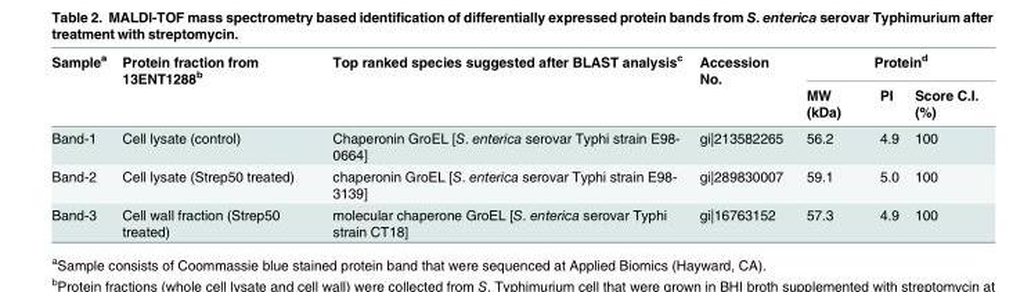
<table><thead><tr><td rowspan="2">Sample<sup>a</sup></td><td rowspan="2">Protein fraction from 13ENT1288<sup>b</sup></td><td rowspan="2">Top ranked species suggested after BLAST analysis<sup>c</sup></td><td rowspan="2">Accession No.</td><td colspan="3">Protein<sup>d</sup></td></tr><tr><td>MW (kDa)</td><td>PI</td><td>Score C.I. (%)</td></tr></thead><tbody><tr><td>Band-1</td><td>Cell lysate (control)</td><td>Chaperonin GroEL [S. enterica serovar Typhi strain E98- 0664]</td><td>gi|213582265</td><td>56.2</td><td>4.9</td><td>100</td></tr><tr><td>Band-2</td><td>Cell lysate (Strep50 treated)</td><td>chaperonin GroEL [S. enterica serovar Typhi strain E98- 3139]</td><td>gi|289830007</td><td>59.1</td><td>5.0</td><td>100</td></tr><tr><td>Band-3</td><td>Cell wall fraction (Strep50 treated)</td><td>molecular chaperone GroEL [S. enterica serovar Typhi strain CT18]</td><td>gi|16763152</td><td>57.3</td><td>4.9</td><td>100</td></tr></tbody></table>